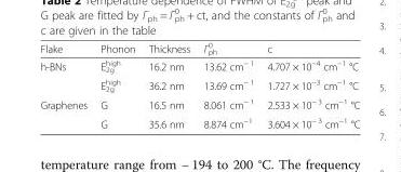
<table><thead><tr><td>Flake</td><td>Phonon</td><td>Thickness</td><td>Γ<sub>ph</sub> <sup>0</sup></td><td>c</td></tr></thead><tbody><tr><td rowspan="2">h-BNs</td><td>E<sub>2g</sub> <sup>high</sup></td><td>16.2 nm</td><td>13.62 cm<sup>− 1</sup></td><td>4.707 × 10<sup>−4</sup> cm<sup>−1</sup> °C</td></tr><tr><td>E<sub>2g</sub> <sup>high</sup></td><td>36.2 nm</td><td>13.69 cm<sup>− 1</sup></td><td>1.727 × 10<sup>−3</sup> cm<sup>−1</sup> °C</td></tr><tr><td rowspan="2">Graphenes</td><td>G</td><td>16.5 nm</td><td>8.061 cm<sup>− 1</sup></td><td>2.533 × 10<sup>− 3</sup> cm<sup>−1</sup> °C</td></tr><tr><td>G</td><td>35.6 nm</td><td>8.874 cm<sup>−1</sup></td><td>3.604 × 10<sup>− 3</sup> cm<sup>−1</sup> °C</td></tr></tbody></table>